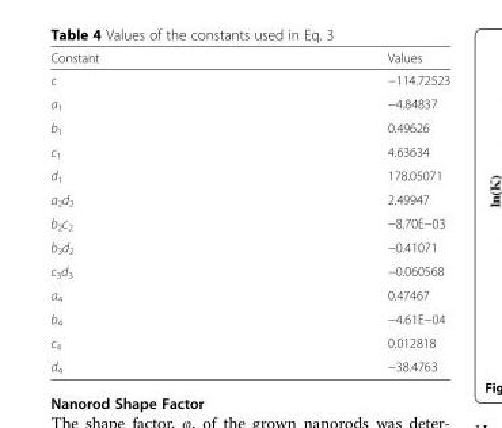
<table><thead><tr><td>Constant</td><td>Values</td></tr></thead><tbody><tr><td>c</td><td>−114.72523</td></tr><tr><td>a<sub>1</sub></td><td>−4.84837</td></tr><tr><td>b<sub>1</sub></td><td>0.49626</td></tr><tr><td>c<sub>1</sub></td><td>4.63634</td></tr><tr><td>d<sub>1</sub></td><td>178.05071</td></tr><tr><td>a<sub>2</sub>d<sub>2</sub></td><td>2.49947</td></tr><tr><td>b<sub>2</sub>c<sub>2</sub></td><td>−8.70E−03</td></tr><tr><td>b<sub>3</sub>d<sub>2</sub></td><td>−0.41071</td></tr><tr><td>c<sub>3</sub>d<sub>3</sub></td><td>−0.060568</td></tr><tr><td>a<sub>4</sub></td><td>0.47467</td></tr><tr><td>b<sub>4</sub></td><td>−4.61E−04</td></tr><tr><td>c<sub>4</sub></td><td>0.012818</td></tr><tr><td>d<sub>4</sub></td><td>−38.4763</td></tr></tbody></table>